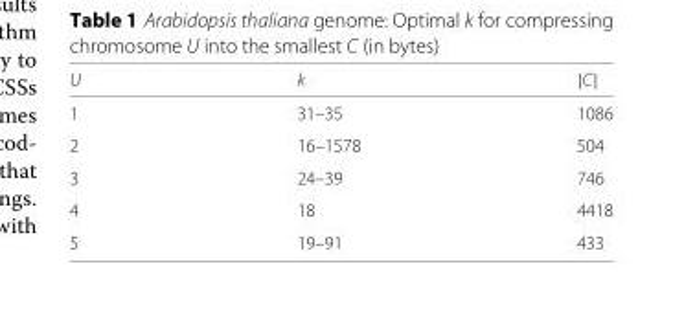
<table><thead><tr><td>U</td><td>k</td><td>|C|</td></tr></thead><tbody><tr><td>1</td><td>31–35</td><td>1086</td></tr><tr><td>2</td><td>16–1578</td><td>504</td></tr><tr><td>3</td><td>24–39</td><td>746</td></tr><tr><td>4</td><td>18</td><td>4418</td></tr><tr><td>5</td><td>19–91</td><td>433</td></tr></tbody></table>